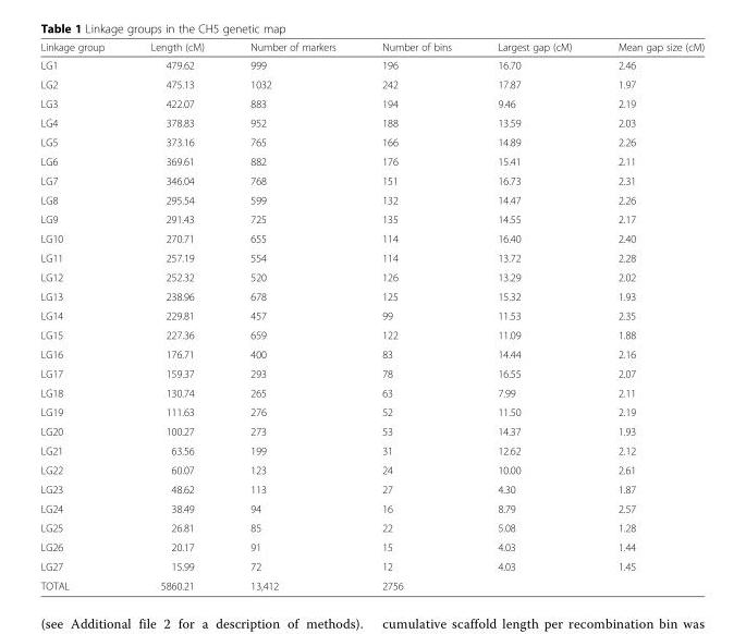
<table><thead><tr><td>Linkage group</td><td>Length (cM)</td><td>Number of markers</td><td>Number of bins</td><td>Largest gap (cM)</td><td>Mean gap size (cM)</td></tr></thead><tbody><tr><td>LG1</td><td>479.62</td><td>999</td><td>196</td><td>16.70</td><td>2.46</td></tr><tr><td>LG2</td><td>475.13</td><td>1032</td><td>242</td><td>17.87</td><td>1.97</td></tr><tr><td>LG3</td><td>422.07</td><td>883</td><td>194</td><td>9.46</td><td>2.19</td></tr><tr><td>LG4</td><td>378.83</td><td>952</td><td>188</td><td>13.59</td><td>2.03</td></tr><tr><td>LG5</td><td>373.16</td><td>765</td><td>166</td><td>14.89</td><td>2.26</td></tr><tr><td>LG6</td><td>369.61</td><td>882</td><td>176</td><td>15.41</td><td>2.11</td></tr><tr><td>LG7</td><td>346.04</td><td>768</td><td>151</td><td>16.73</td><td>2.31</td></tr><tr><td>LG8</td><td>295.54</td><td>599</td><td>132</td><td>14.47</td><td>2.26</td></tr><tr><td>LG9</td><td>291.43</td><td>725</td><td>135</td><td>14.55</td><td>2.17</td></tr><tr><td>LG10</td><td>270.71</td><td>655</td><td>114</td><td>16.40</td><td>2.40</td></tr><tr><td>LG11</td><td>257.19</td><td>554</td><td>114</td><td>13.72</td><td>2.28</td></tr><tr><td>LG12</td><td>252.32</td><td>520</td><td>126</td><td>13.29</td><td>2.02</td></tr><tr><td>LG13</td><td>238.96</td><td>678</td><td>125</td><td>15.32</td><td>1.93</td></tr><tr><td>LG14</td><td>229.81</td><td>457</td><td>99</td><td>11.53</td><td>2.35</td></tr><tr><td>LG15</td><td>227.36</td><td>659</td><td>122</td><td>11.09</td><td>1.88</td></tr><tr><td>LG16</td><td>176.71</td><td>400</td><td>83</td><td>14.44</td><td>2.16</td></tr><tr><td>LG17</td><td>159.37</td><td>293</td><td>78</td><td>16.55</td><td>2.07</td></tr><tr><td>LG18</td><td>130.74</td><td>265</td><td>63</td><td>7.99</td><td>2.11</td></tr><tr><td>LG19</td><td>111.63</td><td>276</td><td>52</td><td>11.50</td><td>2.19</td></tr><tr><td>LG20</td><td>100.27</td><td>273</td><td>53</td><td>14.37</td><td>1.93</td></tr><tr><td>LG21</td><td>63.56</td><td>199</td><td>31</td><td>12.62</td><td>2.12</td></tr><tr><td>LG22</td><td>60.07</td><td>123</td><td>24</td><td>10.00</td><td>2.61</td></tr><tr><td>LG23</td><td>48.62</td><td>113</td><td>27</td><td>4.30</td><td>1.87</td></tr><tr><td>LG24</td><td>38.49</td><td>94</td><td>16</td><td>8.79</td><td>2.57</td></tr><tr><td>LG25</td><td>26.81</td><td>85</td><td>22</td><td>5.08</td><td>1.28</td></tr><tr><td>LG26</td><td>20.17</td><td>91</td><td>15</td><td>4.03</td><td>1.44</td></tr><tr><td>LG27</td><td>15.99</td><td>72</td><td>12</td><td>4.03</td><td>1.45</td></tr><tr><td>TOTAL</td><td>5860.21</td><td>13,412</td><td>2756</td><td></td><td></td></tr></tbody></table>